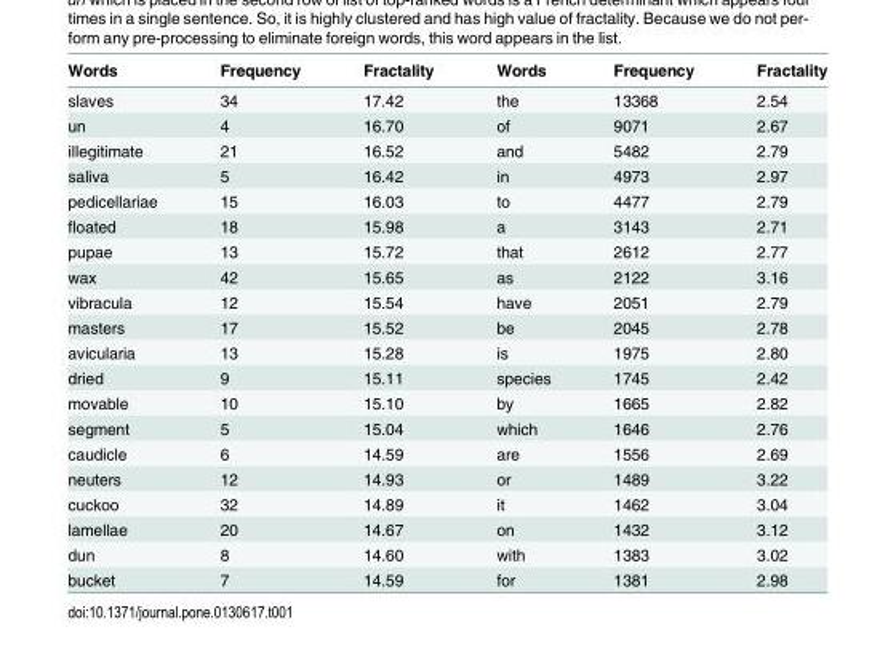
<table><thead><tr><td>Words</td><td>Frequency</td><td>Fractality</td><td>Words</td><td>Frequency</td><td>Fractality</td></tr></thead><tbody><tr><td>slaves</td><td>34</td><td>17.42</td><td>the</td><td>13368</td><td>2.54</td></tr><tr><td>un</td><td>4</td><td>16.70</td><td>of</td><td>9071</td><td>2.67</td></tr><tr><td>illegitimate</td><td>21</td><td>16.52</td><td>and</td><td>5482</td><td>2.79</td></tr><tr><td>saliva</td><td>5</td><td>16.42</td><td>in</td><td>4973</td><td>2.97</td></tr><tr><td>pedicellariae</td><td>15</td><td>16.03</td><td>to</td><td>4477</td><td>2.79</td></tr><tr><td>floated</td><td>18</td><td>15.98</td><td>a</td><td>3143</td><td>2.71</td></tr><tr><td>pupae</td><td>13</td><td>15.72</td><td>that</td><td>2612</td><td>2.77</td></tr><tr><td>wax</td><td>42</td><td>15.65</td><td>as</td><td>2122</td><td>3.16</td></tr><tr><td>vibracula</td><td>12</td><td>15.54</td><td>have</td><td>2051</td><td>2.79</td></tr><tr><td>masters</td><td>17</td><td>15.52</td><td>be</td><td>2045</td><td>2.78</td></tr><tr><td>avicularia</td><td>13</td><td>15.28</td><td>is</td><td>1975</td><td>2.80</td></tr><tr><td>dried</td><td>9</td><td>15.11</td><td>species</td><td>1745</td><td>2.42</td></tr><tr><td>movable</td><td>10</td><td>15.10</td><td>by</td><td>1665</td><td>2.82</td></tr><tr><td>segment</td><td>5</td><td>15.04</td><td>which</td><td>1646</td><td>2.76</td></tr><tr><td>caudicle</td><td>6</td><td>14.59</td><td>are</td><td>1556</td><td>2.69</td></tr><tr><td>neuters</td><td>12</td><td>14.93</td><td>or</td><td>1489</td><td>3.22</td></tr><tr><td>cuckoo</td><td>32</td><td>14.89</td><td>it</td><td>1462</td><td>3.04</td></tr><tr><td>lamellae</td><td>20</td><td>14.67</td><td>on</td><td>1432</td><td>3.12</td></tr><tr><td>dun</td><td>8</td><td>14.60</td><td>with</td><td>1383</td><td>3.02</td></tr><tr><td>bucket</td><td>7</td><td>14.59</td><td>for</td><td>1381</td><td>2.98</td></tr></tbody></table>